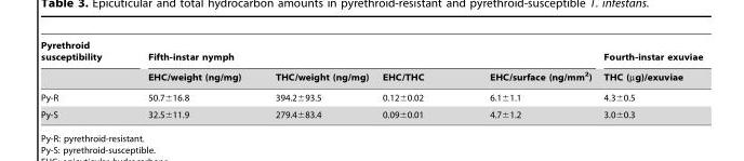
<table><thead><tr><td rowspan="2">Pyrethroid susceptibility</td><td colspan="4">Fifth-instar nymph</td><td rowspan="2">Fourth-instar exuviae THC (µg)/exuviae</td></tr><tr><td>EHC/weight (ng/mg)</td><td>THC/weight (ng/mg)</td><td>EHC/THC</td><td>EHC/surface (ng/mm<sup>2</sup>)</td></tr></thead><tbody><tr><td>Py-R</td><td>50.7±16.8</td><td>394.2±93.5</td><td>0.12±0.02</td><td>6.1±1.1</td><td>4.3±0.5</td></tr><tr><td>Py-S</td><td>32.5±11.9</td><td>279.4±83.4</td><td>0.09±0.01</td><td>4.7±1.2</td><td>3.0±0.3</td></tr></tbody></table>